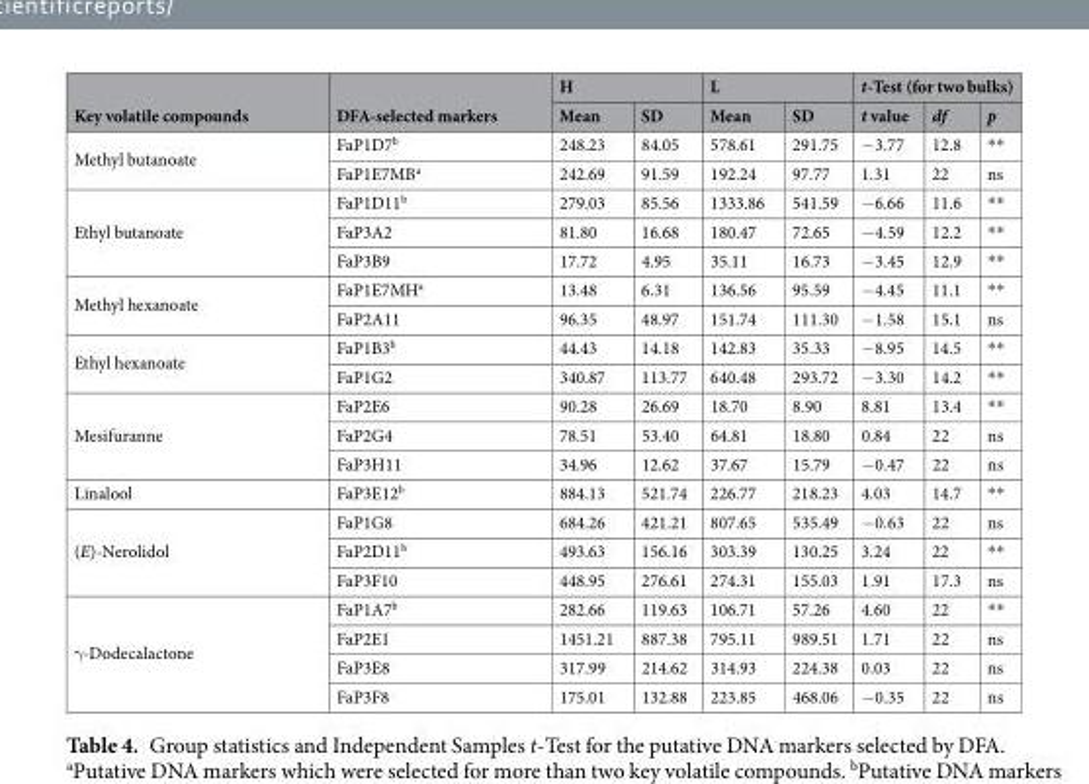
<table><thead><tr><td rowspan="2">Key volatile compounds</td><td rowspan="2">DFA-selected markers</td><td colspan="2">H</td><td colspan="2">L</td><td colspan="3">t-Test (for two bulks)</td></tr><tr><td>Mean</td><td>SD</td><td>Mean</td><td>SD</td><td>t value</td><td>df</td><td>p</td></tr></thead><tbody><tr><td rowspan="2">Methyl butanoate</td><td>FaP1D7<sup>b</sup></td><td>248.23</td><td>84.05</td><td>578.61</td><td>291.75</td><td>−3.77</td><td>12.8</td><td>**</td></tr><tr><td>FaP1E7MB<sup>a</sup></td><td>242.69</td><td>91.59</td><td>192.24</td><td>97.77</td><td>1.31</td><td>22</td><td>ns</td></tr><tr><td rowspan="3">Ethyl butanoate</td><td>FaP1D11<sup>b</sup></td><td>279.03</td><td>85.56</td><td>1333.86</td><td>541.59</td><td>−6.66</td><td>11.6</td><td>**</td></tr><tr><td>FaP3A2</td><td>81.80</td><td>16.68</td><td>180.47</td><td>72.65</td><td>−4.59</td><td>12.2</td><td>**</td></tr><tr><td>FaP3B9</td><td>17.72</td><td>4.95</td><td>35.11</td><td>16.73</td><td>−3.45</td><td>12.9</td><td>**</td></tr><tr><td rowspan="2">Methyl hexanoate</td><td>FaP1E7MH<sup>a</sup></td><td>13.48</td><td>6.31</td><td>136.56</td><td>95.59</td><td>−4.45</td><td>11.1</td><td>**</td></tr><tr><td>FaP2A11</td><td>96.35</td><td>48.97</td><td>151.74</td><td>111.30</td><td>−1.58</td><td>15.1</td><td>ns</td></tr><tr><td rowspan="2">Ethyl hexanoate</td><td>FaP1B3<sup>b</sup></td><td>44.43</td><td>14.18</td><td>142.83</td><td>35.33</td><td>−8.95</td><td>14.5</td><td>**</td></tr><tr><td>FaP1G2</td><td>340.87</td><td>113.77</td><td>640.48</td><td>293.72</td><td>−3.30</td><td>14.2</td><td>**</td></tr><tr><td rowspan="3">Mesifuranne</td><td>FaP2E6</td><td>90.28</td><td>26.69</td><td>18.70</td><td>8.90</td><td>8.81</td><td>13.4</td><td>**</td></tr><tr><td>FaP2G4</td><td>78.51</td><td>53.40</td><td>64.81</td><td>18.80</td><td>0.84</td><td>22</td><td>ns</td></tr><tr><td>FaP3H11</td><td>34.96</td><td>12.62</td><td>37.67</td><td>15.79</td><td>−0.47</td><td>22</td><td>ns</td></tr><tr><td>Linalool</td><td>FaP3E12<sup>b</sup></td><td>884.13</td><td>521.74</td><td>226.77</td><td>218.23</td><td>4.03</td><td>14.7</td><td>**</td></tr><tr><td rowspan="3">(E)-Nerolidol</td><td>FaP1G8</td><td>684.26</td><td>421.21</td><td>807.65</td><td>535.49</td><td>−0.63</td><td>22</td><td>ns</td></tr><tr><td>FaP2D11<sup>b</sup></td><td>493.63</td><td>156.16</td><td>303.39</td><td>130.25</td><td>3.24</td><td>22</td><td>**</td></tr><tr><td>FaP3F10</td><td>448.95</td><td>276.61</td><td>274.31</td><td>155.03</td><td>1.91</td><td>17.3</td><td>ns</td></tr><tr><td rowspan="4">γ-Dodecalactone</td><td>FaP1A7<sup>b</sup></td><td>282.66</td><td>119.63</td><td>106.71</td><td>57.26</td><td>4.60</td><td>22</td><td>**</td></tr><tr><td>FaP2E1</td><td>1451.21</td><td>887.38</td><td>795.11</td><td>989.51</td><td>1.71</td><td>22</td><td>ns</td></tr><tr><td>FaP3E8</td><td>317.99</td><td>214.62</td><td>314.93</td><td>224.38</td><td>0.03</td><td>22</td><td>ns</td></tr><tr><td>FaP3F8</td><td>175.01</td><td>132.88</td><td>223.85</td><td>468.06</td><td>−0.35</td><td>22</td><td>ns</td></tr></tbody></table>